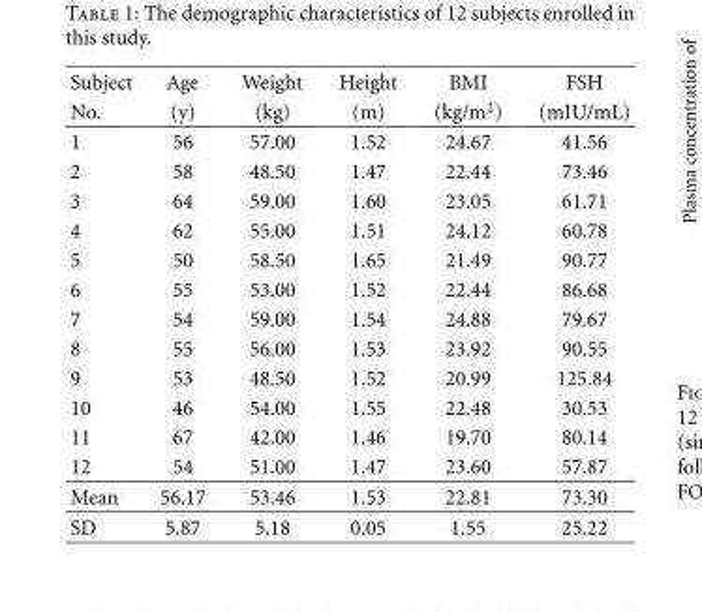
<table><thead><tr><td rowspan="2">Subject No.</td><td rowspan="2">Age (y)</td><td rowspan="2">Weight (kg)</td><td rowspan="2">Height (m)</td><td rowspan="2">BMI (kg/m<sup>2</sup>)</td><td rowspan="2">FSH (mIU/mL)</td></tr><tr></tr></thead><tbody><tr><td>1</td><td>56</td><td>57.00</td><td>1.52</td><td>24.67</td><td>41.56</td></tr><tr><td>2</td><td>58</td><td>48.50</td><td>1.47</td><td>22.44</td><td>73.46</td></tr><tr><td>3</td><td>64</td><td>59.00</td><td>1.60</td><td>23.05</td><td>61.71</td></tr><tr><td>4</td><td>62</td><td>55.00</td><td>1.51</td><td>24.12</td><td>60.78</td></tr><tr><td>5</td><td>50</td><td>58.50</td><td>1.65</td><td>21.49</td><td>90.77</td></tr><tr><td>6</td><td>55</td><td>53.00</td><td>1.52</td><td>22.44</td><td>86.68</td></tr><tr><td>7</td><td>54</td><td>59.00</td><td>1.54</td><td>24.88</td><td>79.67</td></tr><tr><td>8</td><td>55</td><td>56.00</td><td>1.53</td><td>23.92</td><td>90.55</td></tr><tr><td>9</td><td>53</td><td>48.50</td><td>1.52</td><td>20.99</td><td>125.84</td></tr><tr><td>10</td><td>46</td><td>54.00</td><td>1.55</td><td>22.48</td><td>30.53</td></tr><tr><td>11</td><td>67</td><td>42.00</td><td>1.46</td><td>19.70</td><td>80.14</td></tr><tr><td>12</td><td>54</td><td>51.00</td><td>1.47</td><td>23.60</td><td>57.87</td></tr><tr><td>Mean</td><td>56.17</td><td>53.46</td><td>1.53</td><td>22.81</td><td>73.30</td></tr><tr><td>SD</td><td>5.87</td><td>5.18</td><td>0.05</td><td>1.55</td><td>25.22</td></tr></tbody></table>